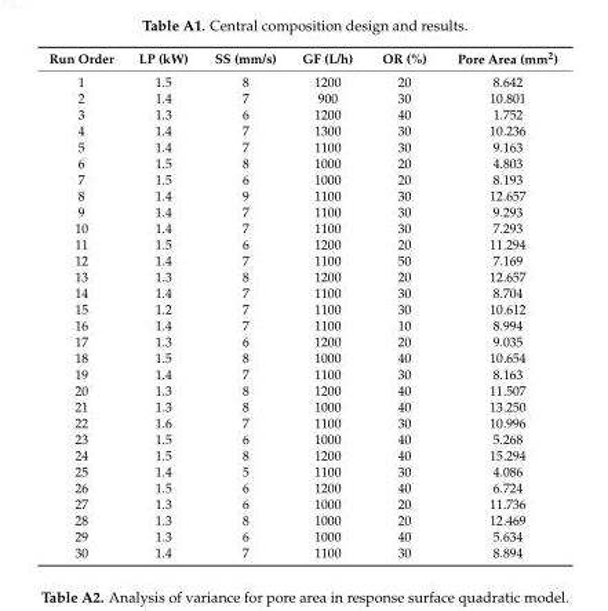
<table><thead><tr><td>Run Order</td><td>LP (kW)</td><td>SS (mm/s)</td><td>GF (L/h)</td><td>OR (%)</td><td>Pore Area (mm<sup>2</sup>)</td></tr></thead><tbody><tr><td>1</td><td>1.5</td><td>8</td><td>1200</td><td>20</td><td>8.642</td></tr><tr><td>2</td><td>1.4</td><td>7</td><td>900</td><td>30</td><td>10.801</td></tr><tr><td>3</td><td>1.3</td><td>6</td><td>1200</td><td>40</td><td>1.752</td></tr><tr><td>4</td><td>1.4</td><td>7</td><td>1300</td><td>30</td><td>10.236</td></tr><tr><td>5</td><td>1.4</td><td>7</td><td>1100</td><td>30</td><td>9.163</td></tr><tr><td>6</td><td>1.5</td><td>8</td><td>1000</td><td>20</td><td>4.803</td></tr><tr><td>7</td><td>1.5</td><td>6</td><td>1000</td><td>20</td><td>8.193</td></tr><tr><td>8</td><td>1.4</td><td>9</td><td>1100</td><td>30</td><td>12.657</td></tr><tr><td>9</td><td>1.4</td><td>7</td><td>1100</td><td>30</td><td>9.293</td></tr><tr><td>10</td><td>1.4</td><td>7</td><td>1100</td><td>30</td><td>7.293</td></tr><tr><td>11</td><td>1.5</td><td>6</td><td>1200</td><td>20</td><td>11.294</td></tr><tr><td>12</td><td>1.4</td><td>7</td><td>1100</td><td>50</td><td>7.169</td></tr><tr><td>13</td><td>1.3</td><td>8</td><td>1200</td><td>20</td><td>12.657</td></tr><tr><td>14</td><td>1.4</td><td>7</td><td>1100</td><td>30</td><td>8.704</td></tr><tr><td>15</td><td>1.2</td><td>7</td><td>1100</td><td>30</td><td>10.612</td></tr><tr><td>16</td><td>1.4</td><td>7</td><td>1100</td><td>10</td><td>8.994</td></tr><tr><td>17</td><td>1.3</td><td>6</td><td>1200</td><td>20</td><td>9.035</td></tr><tr><td>18</td><td>1.5</td><td>8</td><td>1000</td><td>40</td><td>10.654</td></tr><tr><td>19</td><td>1.4</td><td>7</td><td>1100</td><td>30</td><td>8.163</td></tr><tr><td>20</td><td>1.3</td><td>8</td><td>1200</td><td>40</td><td>11.507</td></tr><tr><td>21</td><td>1.3</td><td>8</td><td>1000</td><td>40</td><td>13.250</td></tr><tr><td>22</td><td>1.6</td><td>7</td><td>1100</td><td>30</td><td>10.996</td></tr><tr><td>23</td><td>1.5</td><td>6</td><td>1000</td><td>40</td><td>5.268</td></tr><tr><td>24</td><td>1.5</td><td>8</td><td>1200</td><td>40</td><td>15.294</td></tr><tr><td>25</td><td>1.4</td><td>5</td><td>1100</td><td>30</td><td>4.086</td></tr><tr><td>26</td><td>1.5</td><td>6</td><td>1200</td><td>40</td><td>6.724</td></tr><tr><td>27</td><td>1.3</td><td>6</td><td>1000</td><td>20</td><td>11.736</td></tr><tr><td>28</td><td>1.3</td><td>8</td><td>1000</td><td>20</td><td>12.469</td></tr><tr><td>29</td><td>1.3</td><td>6</td><td>1000</td><td>40</td><td>5.634</td></tr><tr><td>30</td><td>1.4</td><td>7</td><td>1100</td><td>30</td><td>8.894</td></tr></tbody></table>